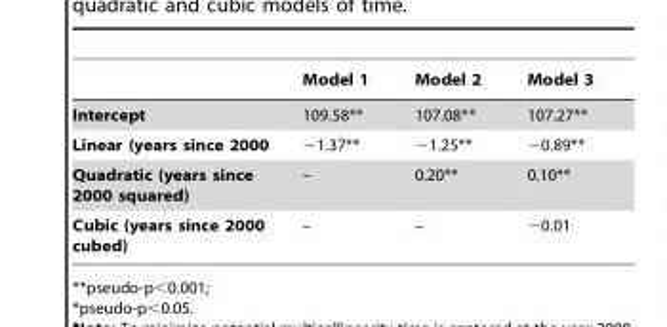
<table><thead><tr><td></td><td>Model 1</td><td>Model 2</td><td>Model 3</td></tr></thead><tbody><tr><td>Intercept</td><td>109.58**</td><td>107.08**</td><td>107.27**</td></tr><tr><td>Linear (years since 2000</td><td>−1.37**</td><td>−1.25**</td><td>−0.89**</td></tr><tr><td>Quadratic (years since 2000 squared)</td><td>–</td><td>0.20**</td><td>0.10**</td></tr><tr><td>Cubic (years since 2000 cubed)</td><td>–</td><td>–</td><td>−0.01</td></tr></tbody></table>